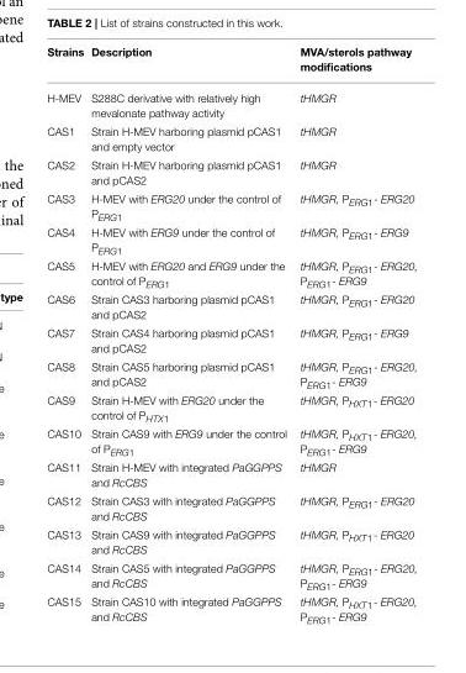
<table><thead><tr><td>Strains</td><td>Description</td><td>MVA/sterols pathway modifications</td></tr></thead><tbody><tr><td>H-MEV</td><td>S288C derivative with relatively high mevalonate pathway activity</td><td>tHMGR</td></tr><tr><td>CAS1</td><td>Strain H-MEV harboring plasmid pCAS1 and empty vector</td><td>tHMGR</td></tr><tr><td>CAS2</td><td>Strain H-MEV harboring plasmid pCAS1 and pCAS2</td><td>tHMGR</td></tr><tr><td>CAS3</td><td>H-MEV with ERG20 under the control of PERG1</td><td>tHMGR, PERG1- ERG20</td></tr><tr><td>CAS4</td><td>H-MEV with ERG9 under the control of PERG1</td><td>tHMGR, PERG1- ERG9</td></tr><tr><td>CAS5</td><td>H-MEV with ERG20 and ERG9 under the control of PERG1</td><td>tHMGR, PERG1- ERG20, PERG1- ERG9</td></tr><tr><td>CAS6</td><td>Strain CAS3 harboring plasmid pCAS1 and pCAS2</td><td>tHMGR, PERG1- ERG20</td></tr><tr><td>CAS7</td><td>Strain CAS4 harboring plasmid pCAS1 and pCAS2</td><td>tHMGR, PERG1- ERG9</td></tr><tr><td>CAS8</td><td>Strain CAS5 harboring plasmid pCAS1 and pCAS2</td><td>tHMGR, PERG1- ERG20, PERG1- ERG9</td></tr><tr><td>CAS9</td><td>Strain H-MEV with ERG20 under the control of PHTX1</td><td>tHMGR, PHXT1- ERG20</td></tr><tr><td>CAS10</td><td>Strain CAS9 with ERG9 under the control of PERG1</td><td>tHMGR, PHXT1- ERG20, PERG1- ERG9</td></tr><tr><td>CAS11</td><td>Strain H-MEV with integrated PaGGPPS and RcCBS</td><td>tHMGR</td></tr><tr><td>CAS12</td><td>Strain CAS3 with integrated PaGGPPS and RcCBS</td><td>tHMGR, PERG1- ERG20</td></tr><tr><td>CAS13</td><td>Strain CAS9 with integrated PaGGPPS and RcCBS</td><td>tHMGR, PHXT1- ERG20</td></tr><tr><td>CAS14</td><td>Strain CAS5 with integrated PaGGPPS and RcCBS</td><td>tHMGR, PERG1- ERG20, PERG1- ERG9</td></tr><tr><td>CAS15</td><td>Strain CAS10 with integrated PaGGPPS and RcCBS</td><td>tHMGR, PHXT1- ERG20, PERG1- ERG9</td></tr></tbody></table>